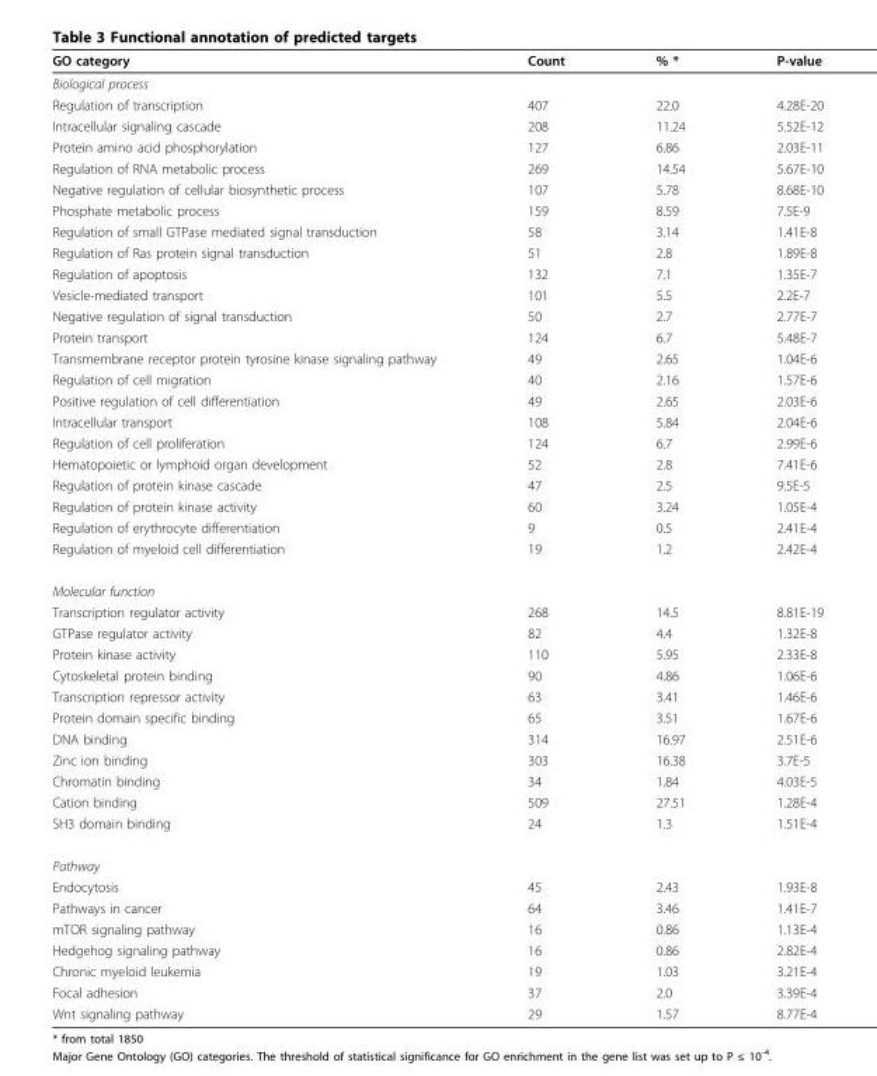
<table><thead><tr><td>GO category</td><td>Count</td><td>% *</td><td>P-value</td></tr></thead><tbody><tr><td colspan="4">Biological process</td></tr><tr><td>Regulation of transcription</td><td>407</td><td>22.0</td><td>4.28E-20</td></tr><tr><td>Intracellular signaling cascade</td><td>208</td><td>11.24</td><td>5.52E-12</td></tr><tr><td>Protein amino acid phosphorylation</td><td>127</td><td>6.86</td><td>2.03E-11</td></tr><tr><td>Regulation of RNA metabolic process</td><td>269</td><td>14.54</td><td>5.67E-10</td></tr><tr><td>Negative regulation of cellular biosynthetic process</td><td>107</td><td>5.78</td><td>8.68E-10</td></tr><tr><td>Phosphate metabolic process</td><td>159</td><td>8.59</td><td>7.5E-9</td></tr><tr><td>Regulation of small GTPase mediated signal transduction</td><td>58</td><td>3.14</td><td>1.41E-8</td></tr><tr><td>Regulation of Ras protein signal transduction</td><td>51</td><td>2.8</td><td>1.89E-8</td></tr><tr><td>Regulation of apoptosis</td><td>132</td><td>7.1</td><td>1.35E-7</td></tr><tr><td>Vesicle-mediated transport</td><td>101</td><td>5.5</td><td>2.2E-7</td></tr><tr><td>Negative regulation of signal transduction</td><td>50</td><td>2.7</td><td>2.77E-7</td></tr><tr><td>Protein transport</td><td>124</td><td>6.7</td><td>5.48E-7</td></tr><tr><td>Transmembrane receptor protein tyrosine kinase signaling pathway</td><td>49</td><td>2.65</td><td>1.04E-6</td></tr><tr><td>Regulation of cell migration</td><td>40</td><td>2.16</td><td>1.57E-6</td></tr><tr><td>Positive regulation of cell differentiation</td><td>49</td><td>2.65</td><td>2.03E-6</td></tr><tr><td>Intracellular transport</td><td>108</td><td>5.84</td><td>2.04E-6</td></tr><tr><td>Regulation of cell proliferation</td><td>124</td><td>6.7</td><td>2.99E-6</td></tr><tr><td>Hematopoietic or lymphoid organ development</td><td>52</td><td>2.8</td><td>7.41E-6</td></tr><tr><td>Regulation of protein kinase cascade</td><td>47</td><td>2.5</td><td>9.5E-5</td></tr><tr><td>Regulation of protein kinase activity</td><td>60</td><td>3.24</td><td>1.05E-4</td></tr><tr><td>Regulation of erythrocyte differentiation</td><td>9</td><td>0.5</td><td>2.41E-4</td></tr><tr><td>Regulation of myeloid cell differentiation</td><td>19</td><td>1.2</td><td>2.42E-4</td></tr><tr><td colspan="4">Molecular function</td></tr><tr><td>Transcription regulator activity</td><td>268</td><td>14.5</td><td>8.81E-19</td></tr><tr><td>GTPase regulator activity</td><td>82</td><td>4.4</td><td>1.32E-8</td></tr><tr><td>Protein kinase activity</td><td>110</td><td>5.95</td><td>2.33E-8</td></tr><tr><td>Cytoskeletal protein binding</td><td>90</td><td>4.86</td><td>1.06E-6</td></tr><tr><td>Transcription repressor activity</td><td>63</td><td>3.41</td><td>1.46E-6</td></tr><tr><td>Protein domain specific binding</td><td>65</td><td>3.51</td><td>1.67E-6</td></tr><tr><td>DNA binding</td><td>314</td><td>16.97</td><td>2.51E-6</td></tr><tr><td>Zinc ion binding</td><td>303</td><td>16.38</td><td>3.7E-5</td></tr><tr><td>Chromatin binding</td><td>34</td><td>1.84</td><td>4.03E-5</td></tr><tr><td>Cation binding</td><td>509</td><td>27.51</td><td>1.28E-4</td></tr><tr><td>SH3 domain binding</td><td>24</td><td>1.3</td><td>1.51E-4</td></tr><tr><td colspan="4">Pathway</td></tr><tr><td>Endocytosis</td><td>45</td><td>2.43</td><td>1.93E-8</td></tr><tr><td>Pathways in cancer</td><td>64</td><td>3.46</td><td>1.41E-7</td></tr><tr><td>mTOR signaling pathway</td><td>16</td><td>0.86</td><td>1.13E-4</td></tr><tr><td>Hedgehog signaling pathway</td><td>16</td><td>0.86</td><td>2.82E-4</td></tr><tr><td>Chronic myeloid leukemia</td><td>19</td><td>1.03</td><td>3.21E-4</td></tr><tr><td>Focal adhesion</td><td>37</td><td>2.0</td><td>3.39E-4</td></tr><tr><td>Wnt signaling pathway</td><td>29</td><td>1.57</td><td>8.77E-4</td></tr></tbody></table>